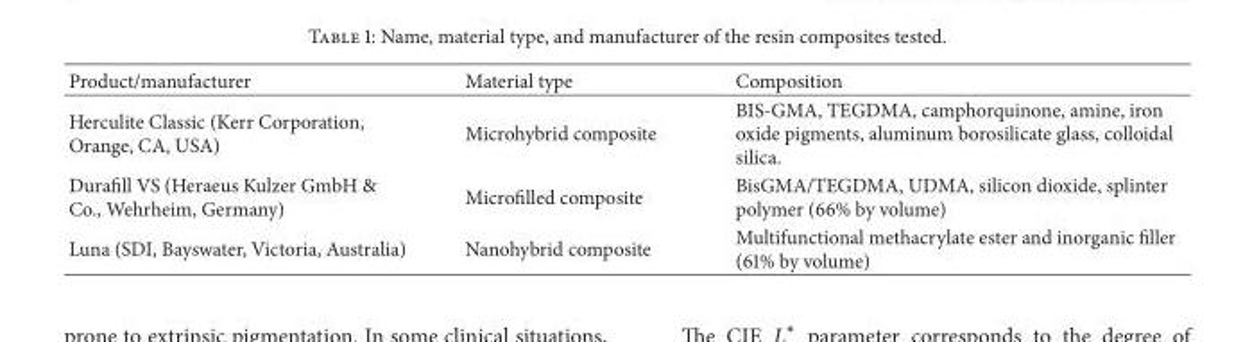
<table><thead><tr><td>Product/manufacturer</td><td>Material type</td><td>Composition</td></tr></thead><tbody><tr><td>Herculite Classic (Kerr Corporation, Orange, CA, USA)</td><td>Microhybrid composite</td><td>BIS-GMA, TEGDMA, camphorquinone, amine, iron oxide pigments, aluminum borosilicate glass, colloidal silica.</td></tr><tr><td>Durafill VS (Heraeus Kulzer GmbH &amp; Co., Wehrheim, Germany)</td><td>Microfilled composite</td><td>BisGMA/TEGDMA, UDMA, silicon dioxide, splinter polymer (66% by volume)</td></tr><tr><td>Luna (SDI, Bayswater, Victoria, Australia)</td><td>Nanohybrid composite</td><td>Multifunctional methacrylate ester and inorganic filler (61% by volume)</td></tr></tbody></table>